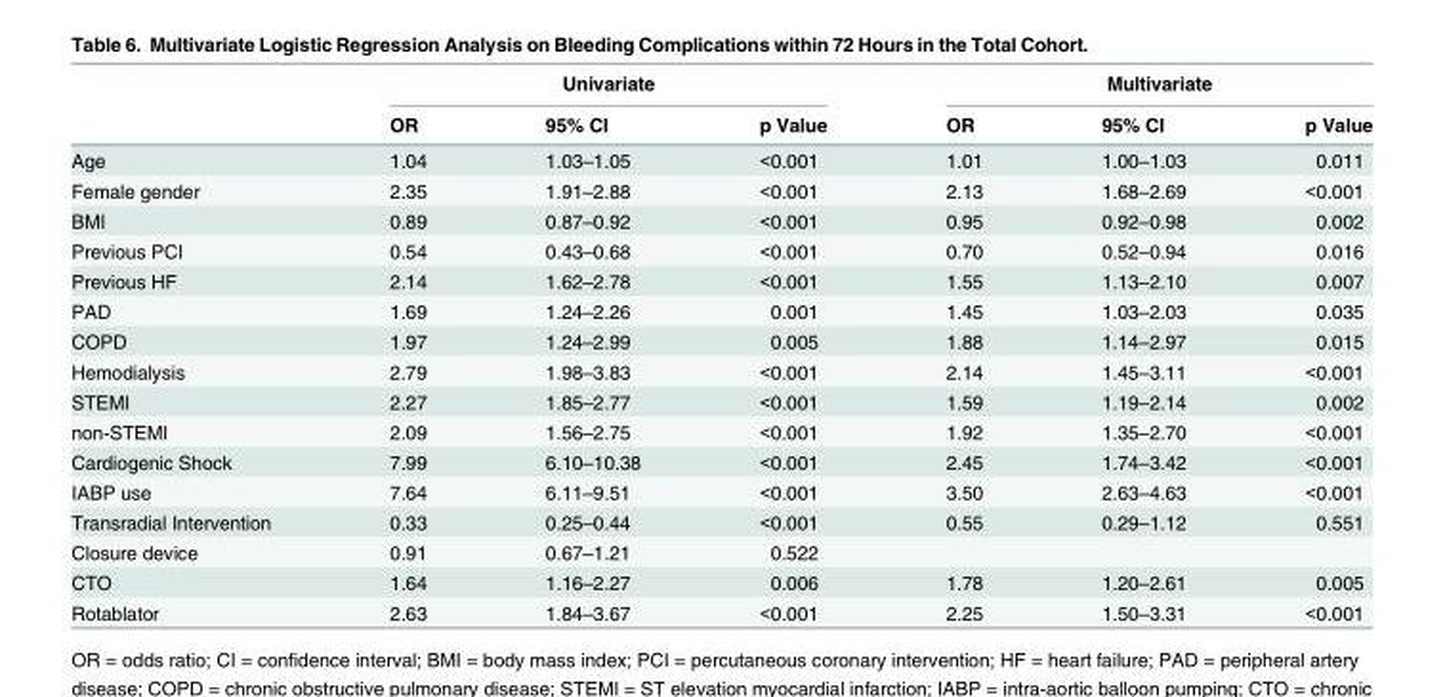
<table><thead><tr><td rowspan="2"></td><td colspan="3">Univariate</td><td colspan="3">Multivariate</td></tr><tr><td>OR</td><td>95% CI</td><td>p Value</td><td>OR</td><td>95% CI</td><td>p Value</td></tr></thead><tbody><tr><td>Age</td><td>1.04</td><td>1.03–1.05</td><td>&lt;0.001</td><td>1.01</td><td>1.00–1.03</td><td>0.011</td></tr><tr><td>Female gender</td><td>2.35</td><td>1.91–2.88</td><td>&lt;0.001</td><td>2.13</td><td>1.68–2.69</td><td>&lt;0.001</td></tr><tr><td>BMI</td><td>0.89</td><td>0.87–0.92</td><td>&lt;0.001</td><td>0.95</td><td>0.92–0.98</td><td>0.002</td></tr><tr><td>Previous PCI</td><td>0.54</td><td>0.43–0.68</td><td>&lt;0.001</td><td>0.70</td><td>0.52–0.94</td><td>0.016</td></tr><tr><td>Previous HF</td><td>2.14</td><td>1.62–2.78</td><td>&lt;0.001</td><td>1.55</td><td>1.13–2.10</td><td>0.007</td></tr><tr><td>PAD</td><td>1.69</td><td>1.24–2.26</td><td>0.001</td><td>1.45</td><td>1.03–2.03</td><td>0.035</td></tr><tr><td>COPD</td><td>1.97</td><td>1.24–2.99</td><td>0.005</td><td>1.88</td><td>1.14–2.97</td><td>0.015</td></tr><tr><td>Hemodialysis</td><td>2.79</td><td>1.98–3.83</td><td>&lt;0.001</td><td>2.14</td><td>1.45–3.11</td><td>&lt;0.001</td></tr><tr><td>STEMI</td><td>2.27</td><td>1.85–2.77</td><td>&lt;0.001</td><td>1.59</td><td>1.19–2.14</td><td>0.002</td></tr><tr><td>non-STEMI</td><td>2.09</td><td>1.56–2.75</td><td>&lt;0.001</td><td>1.92</td><td>1.35–2.70</td><td>&lt;0.001</td></tr><tr><td>Cardiogenic Shock</td><td>7.99</td><td>6.10–10.38</td><td>&lt;0.001</td><td>2.45</td><td>1.74–3.42</td><td>&lt;0.001</td></tr><tr><td>IABP use</td><td>7.64</td><td>6.11–9.51</td><td>&lt;0.001</td><td>3.50</td><td>2.63–4.63</td><td>&lt;0.001</td></tr><tr><td>Transradial Intervention</td><td>0.33</td><td>0.25–0.44</td><td>&lt;0.001</td><td>0.55</td><td>0.29–1.12</td><td>0.551</td></tr><tr><td>Closure device</td><td>0.91</td><td>0.67–1.21</td><td>0.522</td><td></td><td></td><td></td></tr><tr><td>CTO</td><td>1.64</td><td>1.16–2.27</td><td>0.006</td><td>1.78</td><td>1.20–2.61</td><td>0.005</td></tr><tr><td>Rotablator</td><td>2.63</td><td>1.84–3.67</td><td>&lt;0.001</td><td>2.25</td><td>1.50–3.31</td><td>&lt;0.001</td></tr></tbody></table>